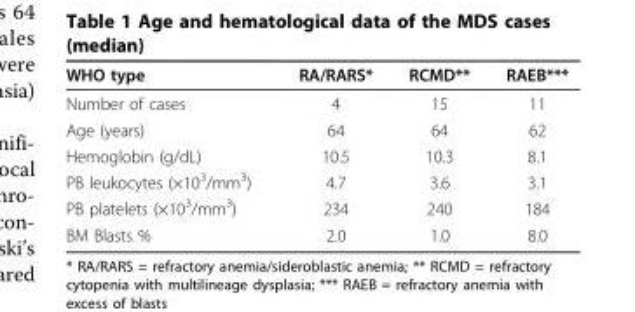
<table><thead><tr><td>WHO type</td><td>RA/RARS*</td><td>RCMD**</td><td>RAEB***</td></tr></thead><tbody><tr><td>Number of cases</td><td>4</td><td>15</td><td>11</td></tr><tr><td>Age (years)</td><td>64</td><td>64</td><td>62</td></tr><tr><td>Hemoglobin (g/dL)</td><td>10.5</td><td>10.3</td><td>8.1</td></tr><tr><td>PB leukocytes (×10<sup>3</sup>/mm<sup>3</sup>)</td><td>4.7</td><td>3.6</td><td>3.1</td></tr><tr><td>PB platelets (×10<sup>3</sup>/mm<sup>3</sup>)</td><td>234</td><td>240</td><td>184</td></tr><tr><td>BM Blasts %</td><td>2.0</td><td>1.0</td><td>8.0</td></tr></tbody></table>